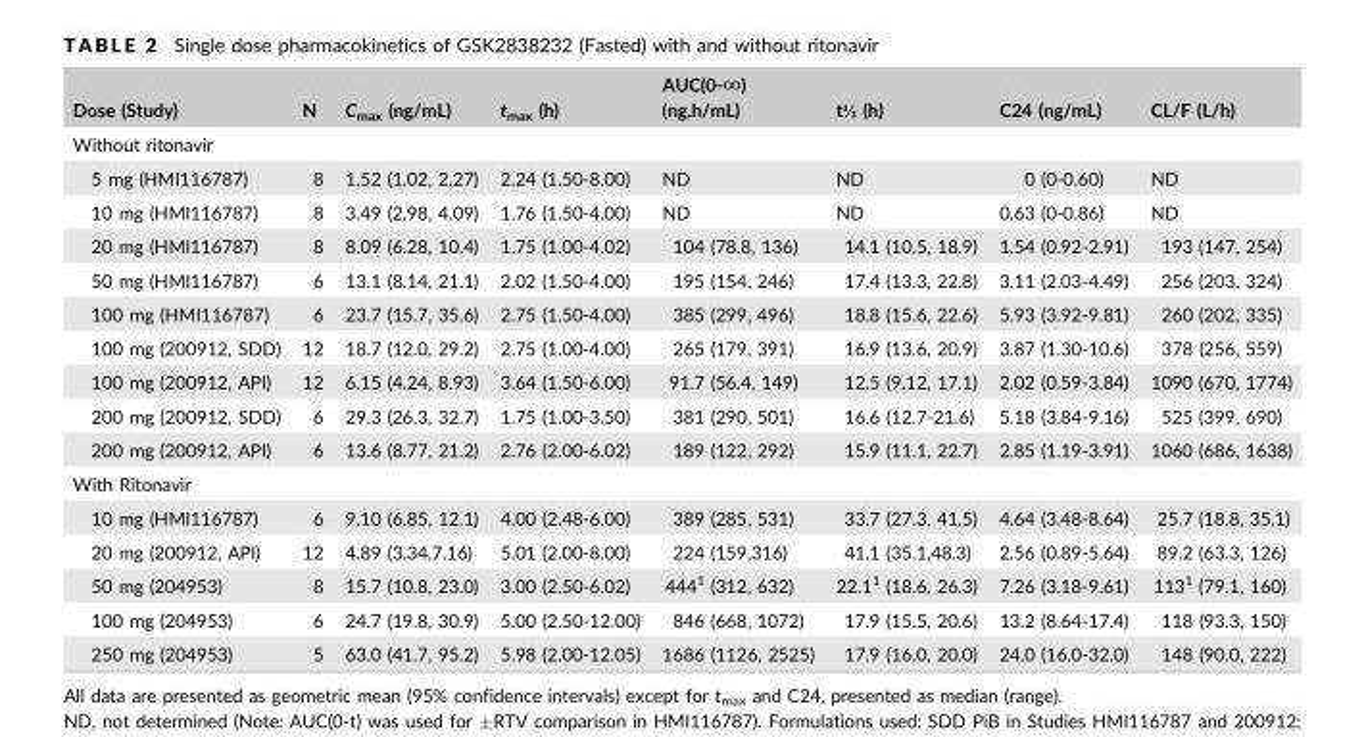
<table><thead><tr><td>Dose (Study)</td><td>N</td><td>C<sub>max</sub> (ng/mL)</td><td>t<sub>max</sub> (h)</td><td>AUC(0-∞) (ng.h/mL)</td><td>t½ (h)</td><td>C24 (ng/mL)</td><td>CL/F (L/h)</td></tr></thead><tbody><tr><td colspan="8">Without ritonavir</td></tr><tr><td>5 mg (HMI116787)</td><td>8</td><td>1.52 (1.02, 2.27)</td><td>2.24 (1.50-8.00)</td><td>ND</td><td>ND</td><td>0 (0-0.60)</td><td>ND</td></tr><tr><td>10 mg (HMI116787)</td><td>8</td><td>3.49 (2.98, 4.09)</td><td>1.76 (1.50-4.00)</td><td>ND</td><td>ND</td><td>0.63 (0-0.86)</td><td>ND</td></tr><tr><td>20 mg (HMI116787)</td><td>8</td><td>8.09 (6.28, 10.4)</td><td>1.75 (1.00-4.02)</td><td>104 (78.8, 136)</td><td>14.1 (10.5, 18.9)</td><td>1.54 (0.92-2.91)</td><td>193 (147, 254)</td></tr><tr><td>50 mg (HMI116787)</td><td>6</td><td>13.1 (8.14, 21.1)</td><td>2.02 (1.50-4.00)</td><td>195 (154, 246)</td><td>17.4 (13.3, 22.8)</td><td>3.11 (2.03-4.49)</td><td>256 (203, 324)</td></tr><tr><td>100 mg (HMI116787)</td><td>6</td><td>23.7 (15.7, 35.6)</td><td>2.75 (1.50-4.00)</td><td>385 (299, 496)</td><td>18.8 (15.6, 22.6)</td><td>5.93 (3.92-9.81)</td><td>260 (202, 335)</td></tr><tr><td>100 mg (200912, SDD)</td><td>12</td><td>18.7 (12.0, 29.2)</td><td>2.75 (1.00-4.00)</td><td>265 (179, 391)</td><td>16.9 (13.6, 20.9)</td><td>3.87 (1.30-10.6)</td><td>378 (256, 559)</td></tr><tr><td>100 mg (200912, API)</td><td>12</td><td>6.15 (4.24, 8.93)</td><td>3.64 (1.50-6.00)</td><td>91.7 (56.4, 149)</td><td>12.5 (9.12, 17.1)</td><td>2.02 (0.59-3.84)</td><td>1090 (670, 1774)</td></tr><tr><td>200 mg (200912, SDD)</td><td>6</td><td>29.3 (26.3, 32.7)</td><td>1.75 (1.00-3.50)</td><td>381 (290, 501)</td><td>16.6 (12.7-21.6)</td><td>5.18 (3.84-9.16)</td><td>525 (399, 690)</td></tr><tr><td>200 mg (200912, API)</td><td>6</td><td>13.6 (8.77, 21.2)</td><td>2.76 (2.00-6.02)</td><td>189 (122, 292)</td><td>15.9 (11.1, 22.7)</td><td>2.85 (1.19-3.91)</td><td>1060 (686, 1638)</td></tr><tr><td colspan="8">With Ritonavir</td></tr><tr><td>10 mg (HMI116787)</td><td>6</td><td>9.10 (6.85, 12.1)</td><td>4.00 (2.48-6.00)</td><td>389 (285, 531)</td><td>33.7 (27.3, 41.5)</td><td>4.64 (3.48-8.64)</td><td>25.7 (18.8, 35.1)</td></tr><tr><td>20 mg (200912, API)</td><td>12</td><td>4.89 (3.34,7.16)</td><td>5.01 (2.00-8.00)</td><td>224 (159,316)</td><td>41.1 (35.1,48.3)</td><td>2.56 (0.89-5.64)</td><td>89.2 (63.3, 126)</td></tr><tr><td>50 mg (204953)</td><td>8</td><td>15.7 (10.8, 23.0)</td><td>3.00 (2.50-6.02)</td><td>4441 (312, 632)</td><td>22.1<sup>1</sup> (18.6, 26.3)</td><td>7.26 (3.18-9.61)</td><td>1131 (79.1, 160)</td></tr><tr><td>100 mg (204953)</td><td>6</td><td>24.7 (19.8, 30.9)</td><td>5.00 (2.50-12.00)</td><td>846 (668, 1072)</td><td>17.9 (15.5, 20.6)</td><td>13.2 (8.64-17.4)</td><td>118 (93.3, 150)</td></tr><tr><td>250 mg (204953)</td><td>5</td><td>63.0 (41.7, 95.2)</td><td>5.98 (2.00-12.05)</td><td>1686 (1126, 2525)</td><td>17.9 (16.0, 20.0)</td><td>24.0 (16.0-32.0)</td><td>148 (90.0, 222)</td></tr></tbody></table>